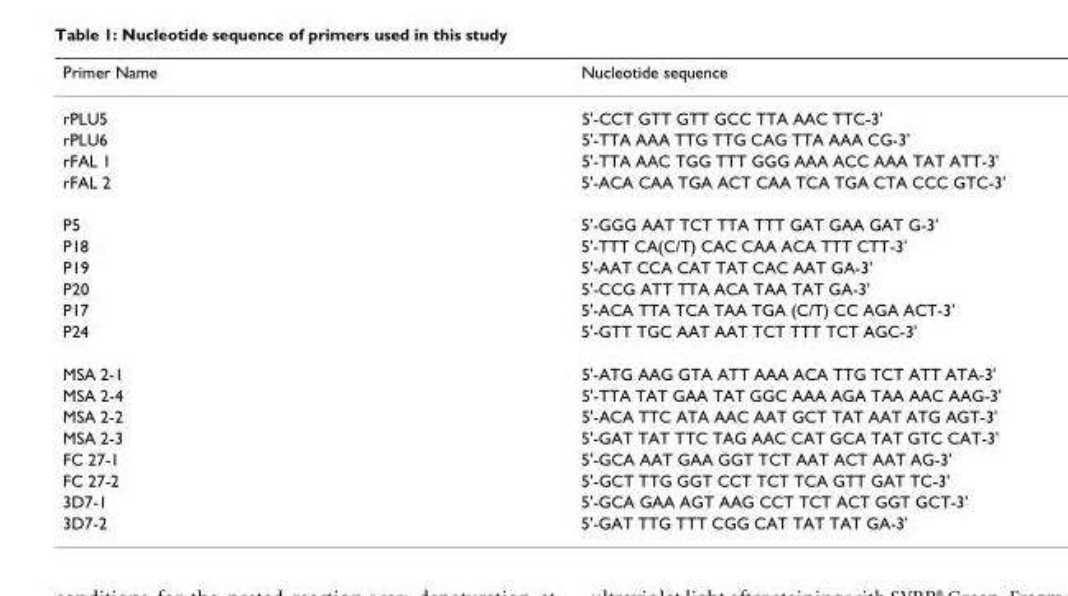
<table><thead><tr><td>Primer Name</td><td>Nucleotide sequence</td></tr></thead><tbody><tr><td>rPLU5</td><td>5&#x27;-CCT GTT GTT GCC TTA AAC TTC-3&#x27;</td></tr><tr><td>rPLU6</td><td>5&#x27;-TTA AAA TTG TTG CAG TTA AAA CG-3&#x27;</td></tr><tr><td>rFAL 1</td><td>5&#x27;-TTA AAC TGG TTT GGG AAA ACC AAA TAT ATT-3&#x27;</td></tr><tr><td>rFAL 2</td><td>5&#x27;-ACA CAA TGA ACT CAA TCA TGA CTA CCC GTC-3&#x27;</td></tr><tr><td>P5</td><td>5&#x27;-GGG AAT TCT TTA TTT GAT GAA GAT G-3&#x27;</td></tr><tr><td>P18</td><td>5&#x27;-TTT CA(C/T) CAC CAA ACA TTT CTT-3&#x27;</td></tr><tr><td>P19</td><td>5&#x27;-AAT CCA CAT TAT CAC AAT GA-3&#x27;</td></tr><tr><td>P20</td><td>5&#x27;-CCG ATT TTA ACA TAA TAT GA-3&#x27;</td></tr><tr><td>P17</td><td>5&#x27;-ACA TTA TCA TAA TGA (C/T) CC AGA ACT-3&#x27;</td></tr><tr><td>P24</td><td>5&#x27;-GTT TGC AAT AAT TCT TTT TCT AGC-3&#x27;</td></tr><tr><td>MSA 2-1</td><td>5&#x27;-ATG AAG GTA ATT AAA ACA TTG TCT ATT ATA-3&#x27;</td></tr><tr><td>MSA 2-4</td><td>5&#x27;-TTA TAT GAA TAT GGC AAA AGA TAA AAC AAG-3&#x27;</td></tr><tr><td>MSA 2-2</td><td>5&#x27;-ACA TTC ATA AAC AAT GCT TAT AAT ATG AGT-3&#x27;</td></tr><tr><td>MSA 2-3</td><td>5&#x27;-GAT TAT TTC TAG AAC CAT GCA TAT GTC CAT-3&#x27;</td></tr><tr><td>FC 27-1</td><td>5&#x27;-GCA AAT GAA GGT TCT AAT ACT AAT AG-3&#x27;</td></tr><tr><td>FC 27-2</td><td>5&#x27;-GCT TTG GGT CCT TCT TCA GTT GAT TC-3&#x27;</td></tr><tr><td>3D7-1</td><td>5&#x27;-GCA GAA AGT AAG CCT TCT ACT GGT GCT-3&#x27;</td></tr><tr><td>3D7-2</td><td>5&#x27;-GAT TTG TTT CGG CAT TAT TAT GA-3&#x27;</td></tr></tbody></table>